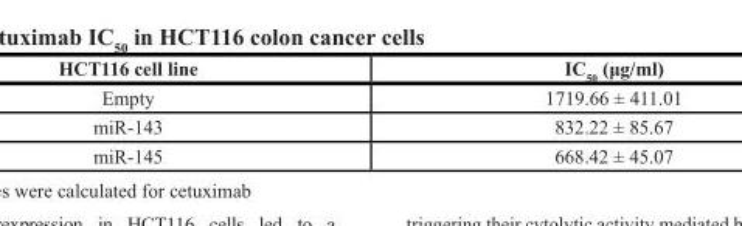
<table><thead><tr><td>HCT116 cell line</td><td>IC<sub>50</sub> (μg/ml)</td></tr></thead><tbody><tr><td>Empty</td><td>1719.66 ± 411.01</td></tr><tr><td>miR-143</td><td>832.22 ± 85.67</td></tr><tr><td>miR-145</td><td>668.42 ± 45.07</td></tr></tbody></table>